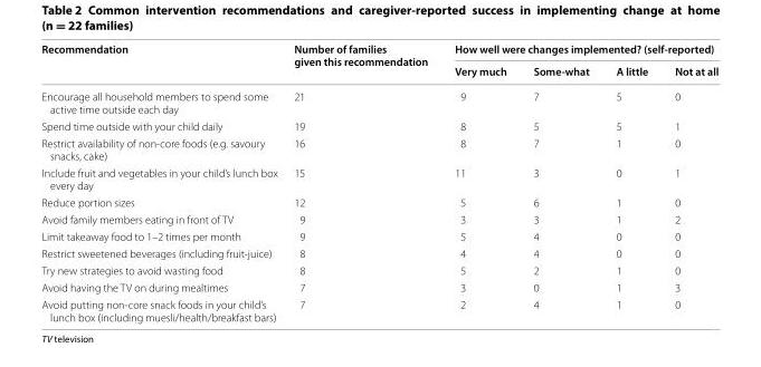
<table><thead><tr><td rowspan="2">Recommendation</td><td rowspan="2">Number of families given this recommendation</td><td colspan="4">How well were changes implemented? (self-reported)</td></tr><tr><td>Very much</td><td>Some-what</td><td>A little</td><td>Not at all</td></tr></thead><tbody><tr><td>Encourage all household members to spend some active time outside each day</td><td>21</td><td>9</td><td>7</td><td>5</td><td>0</td></tr><tr><td>Spend time outside with your child daily</td><td>19</td><td>8</td><td>5</td><td>5</td><td>1</td></tr><tr><td>Restrict availability of non-core foods (e.g. savoury snacks, cake)</td><td>16</td><td>8</td><td>7</td><td>1</td><td>0</td></tr><tr><td>Include fruit and vegetables in your child’s lunch box every day</td><td>15</td><td>11</td><td>3</td><td>0</td><td>1</td></tr><tr><td>Reduce portion sizes</td><td>12</td><td>5</td><td>6</td><td>1</td><td>0</td></tr><tr><td>Avoid family members eating in front of TV</td><td>9</td><td>3</td><td>3</td><td>1</td><td>2</td></tr><tr><td>Limit takeaway food to 1–2 times per month</td><td>9</td><td>5</td><td>4</td><td>0</td><td>0</td></tr><tr><td>Restrict sweetened beverages (including fruit-juice)</td><td>8</td><td>4</td><td>4</td><td>0</td><td>0</td></tr><tr><td>Try new strategies to avoid wasting food</td><td>8</td><td>5</td><td>2</td><td>1</td><td>0</td></tr><tr><td>Avoid having the TV on during mealtimes</td><td>7</td><td>3</td><td>0</td><td>1</td><td>3</td></tr><tr><td>Avoid putting non-core snack foods in your child’s lunch box (including muesli/health/breakfast bars)</td><td>7</td><td>2</td><td>4</td><td>1</td><td>0</td></tr></tbody></table>